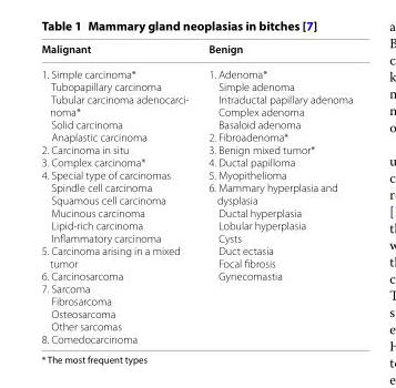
<table><thead><tr><td>Malignant</td><td>Benign</td></tr></thead><tbody><tr><td>1. Simple carcinoma* Tubopapillary carcinoma Tubular carcinoma adenocarci- noma* Solid carcinoma Anaplastic carcinoma 2. Carcinoma in situ 3. Complex carcinoma* 4. Special type of carcinomas Spindle cell carcinoma Squamous cell carcinoma Mucinous carcinoma Lipid-rich carcinoma Inflammatory carcinoma 5. Carcinoma arising in a mixed tumor 6. Carcinosarcoma 7. Sarcoma Fibrosarcoma Osteosarcoma Other sarcomas 8. Comedocarcinoma</td><td>1. Adenoma* Simple adenoma Intraductal papillary adenoma Complex adenoma Basaloid adenoma 2. Fibroadenoma* 3. Benign mixed tumor* 4. Ductal papilloma 5. Myopithelioma 6. Mammary hyperplasia and dysplasia Ductal hyperplasia Lobular hyperplasia Cysts Duct ectasia Focal fibrosis Gynecomastia</td></tr></tbody></table>